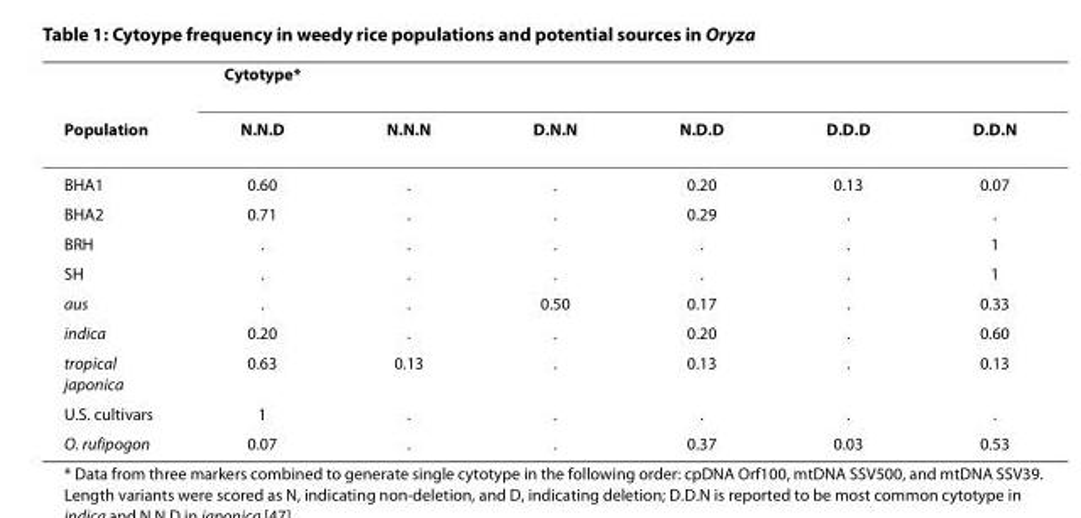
<table><thead><tr><td rowspan="2">Population</td><td rowspan="2">Cytotype* N.N.D</td><td rowspan="2">N.N.N</td><td rowspan="2">D.N.N</td><td rowspan="2">N.D.D</td><td rowspan="2">D.D.D</td><td rowspan="2">D.D.N</td></tr><tr></tr></thead><tbody><tr><td>BHA1</td><td>0.60</td><td>.</td><td>.</td><td>0.20</td><td>0.13</td><td>0.07</td></tr><tr><td>BHA2</td><td>0.71</td><td>.</td><td>.</td><td>0.29</td><td>.</td><td>.</td></tr><tr><td>BRH</td><td>.</td><td>.</td><td>.</td><td>.</td><td>.</td><td>1</td></tr><tr><td>SH</td><td>.</td><td>.</td><td>.</td><td>.</td><td>.</td><td>1</td></tr><tr><td>aus</td><td>.</td><td>.</td><td>0.50</td><td>0.17</td><td>.</td><td>0.33</td></tr><tr><td>indica</td><td>0.20</td><td>.</td><td>.</td><td>0.20</td><td>.</td><td>0.60</td></tr><tr><td>tropical japonica</td><td>0.63</td><td>0.13</td><td>.</td><td>0.13</td><td>.</td><td>0.13</td></tr><tr><td>U.S. cultivars</td><td>1</td><td>.</td><td>.</td><td>.</td><td>.</td><td>.</td></tr><tr><td>O. rufipogon</td><td>0.07</td><td>.</td><td>.</td><td>0.37</td><td>0.03</td><td>0.53</td></tr></tbody></table>